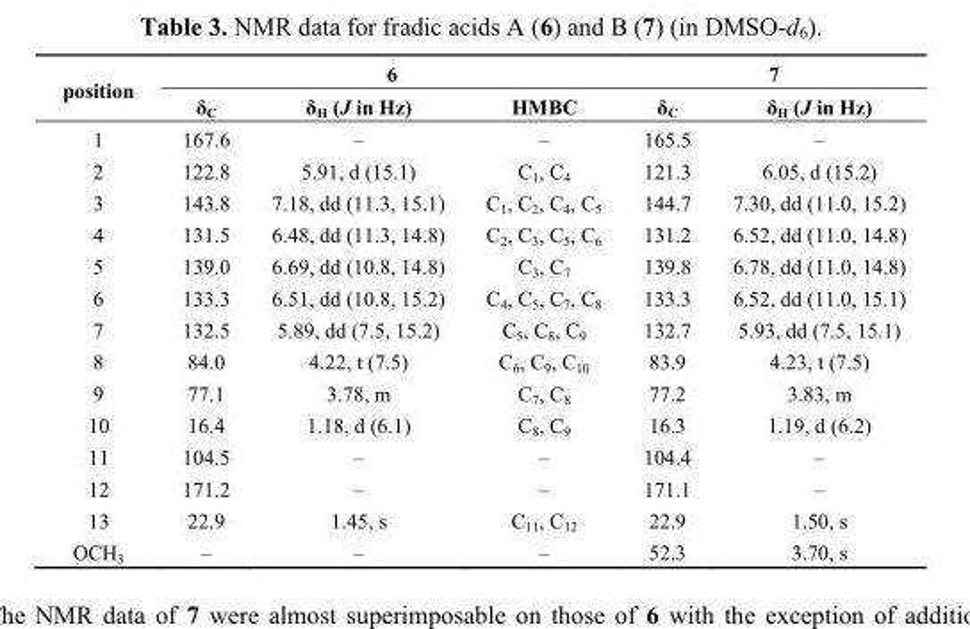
<table><thead><tr><td rowspan="2">position</td><td colspan="3">6</td><td colspan="2">7</td></tr><tr><td>δ<sub>C</sub></td><td>δ<sub>H</sub> (J in Hz)</td><td>HMBC</td><td>δ<sub>C</sub></td><td>δ<sub>H</sub> (J in Hz)</td></tr></thead><tbody><tr><td>1</td><td>167.6</td><td>–</td><td>–</td><td>165.5</td><td>–</td></tr><tr><td>2</td><td>122.8</td><td>5.91, d (15.1)</td><td>C<sub>1</sub>, C<sub>4</sub></td><td>121.3</td><td>6.05, d (15.2)</td></tr><tr><td>3</td><td>143.8</td><td>7.18, dd (11.3, 15.1)</td><td>C<sub>1</sub>, C<sub>2</sub>, C<sub>4</sub>, C<sub>5</sub></td><td>144.7</td><td>7.30, dd (11.0, 15.2)</td></tr><tr><td>4</td><td>131.5</td><td>6.48, dd (11.3, 14.8)</td><td>C<sub>2</sub>, C<sub>3</sub>, C<sub>5</sub>, C<sub>6</sub></td><td>131.2</td><td>6.52, dd (11.0, 14.8)</td></tr><tr><td>5</td><td>139.0</td><td>6.69, dd (10.8, 14.8)</td><td>C<sub>3</sub>, C<sub>7</sub></td><td>139.8</td><td>6.78, dd (11.0, 14.8)</td></tr><tr><td>6</td><td>133.3</td><td>6.51, dd (10.8, 15.2)</td><td>C<sub>4</sub>, C<sub>5</sub>, C<sub>7</sub>, C<sub>8</sub></td><td>133.3</td><td>6.52, dd (11.0, 15.1)</td></tr><tr><td>7</td><td>132.5</td><td>5.89, dd (7.5, 15.2)</td><td>C<sub>5</sub>, C<sub>8</sub>, C<sub>9</sub></td><td>132.7</td><td>5.93, dd (7.5, 15.1)</td></tr><tr><td>8</td><td>84.0</td><td>4.22, t (7.5)</td><td>C<sub>6</sub>, C<sub>9</sub>, C<sub>10</sub></td><td>83.9</td><td>4.23, t (7.5)</td></tr><tr><td>9</td><td>77.1</td><td>3.78, m</td><td>C<sub>7</sub>, C<sub>8</sub></td><td>77.2</td><td>3.83, m</td></tr><tr><td>10</td><td>16.4</td><td>1.18, d (6.1)</td><td>C<sub>8</sub>, C<sub>9</sub></td><td>16.3</td><td>1.19, d (6.2)</td></tr><tr><td>11</td><td>104.5</td><td>–</td><td>–</td><td>104.4</td><td>–</td></tr><tr><td>12</td><td>171.2</td><td>–</td><td>–</td><td>171.1</td><td>–</td></tr><tr><td>13</td><td>22.9</td><td>1.45, s</td><td>C<sub>11</sub>, C<sub>12</sub></td><td>22.9</td><td>1.50, s</td></tr><tr><td>OCH<sub>3</sub></td><td>–</td><td>–</td><td>–</td><td>52.3</td><td>3.70, s</td></tr></tbody></table>